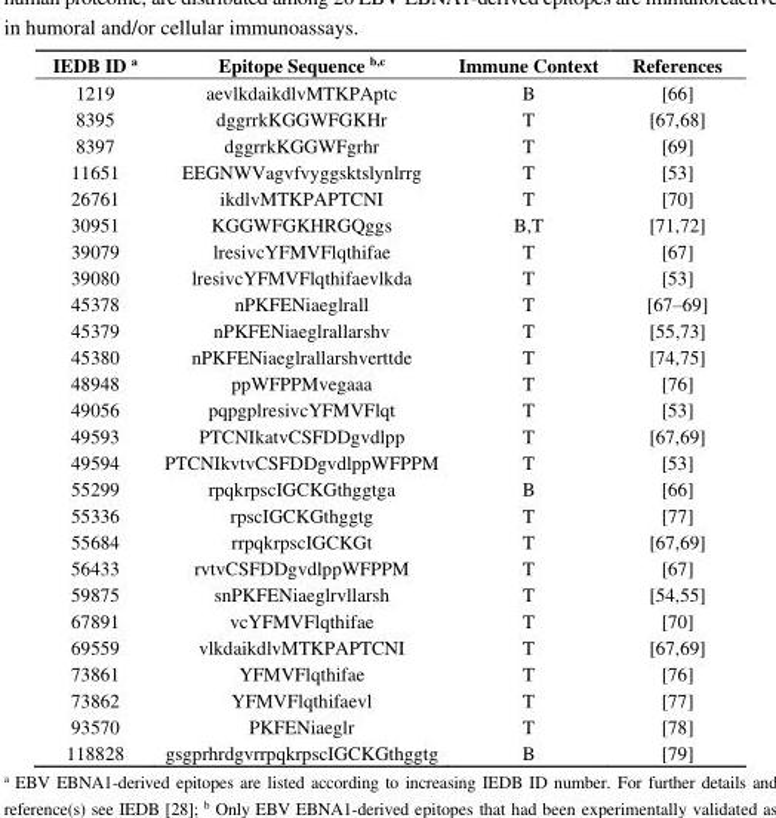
<table><thead><tr><td>IEDB ID <sup>a</sup></td><td>Epitope Sequence <sup>b,c</sup></td><td>Immune Context</td><td>References</td></tr></thead><tbody><tr><td>1219</td><td>aevlkdaikdlvMTKPAptc</td><td>B</td><td>[66]</td></tr><tr><td>8395</td><td>dggrrkKGGWFGKHr</td><td>T</td><td>[67,68]</td></tr><tr><td>8397</td><td>dggrrkKGGWFgrhr</td><td>T</td><td>[69]</td></tr><tr><td>11651</td><td>EEGNWVagvfvyggsktslynlrrg</td><td>T</td><td>[53]</td></tr><tr><td>26761</td><td>ikdlvMTKPAPTCNI</td><td>T</td><td>[70]</td></tr><tr><td>30951</td><td>KGGWFGKHRGQggs</td><td>B,T</td><td>[71,72]</td></tr><tr><td>39079</td><td>lresivcYFMVFlqthifae</td><td>T</td><td>[67]</td></tr><tr><td>39080</td><td>lresivcYFMVFlqthifaevlkda</td><td>T</td><td>[53]</td></tr><tr><td>45378</td><td>nPKFENiaeglrall</td><td>T</td><td>[67–69]</td></tr><tr><td>45379</td><td>nPKFENiaeglrallarshv</td><td>T</td><td>[55,73]</td></tr><tr><td>45380</td><td>nPKFENiaeglrallarshverttde</td><td>T</td><td>[74,75]</td></tr><tr><td>48948</td><td>ppWFPPMvegaaa</td><td>T</td><td>[76]</td></tr><tr><td>49056</td><td>pqpgplresivcYFMVFlqt</td><td>T</td><td>[53]</td></tr><tr><td>49593</td><td>PTCNIkatvCSFDDgvdlpp</td><td>T</td><td>[67,69]</td></tr><tr><td>49594</td><td>PTCNIkvtvCSFDDgvdlppWFPPM</td><td>T</td><td>[53]</td></tr><tr><td>55299</td><td>rpqkrpscIGCKGthggtga</td><td>B</td><td>[66]</td></tr><tr><td>55336</td><td>rpscIGCKGthggtg</td><td>T</td><td>[77]</td></tr><tr><td>55684</td><td>rrpqkrpscIGCKGt</td><td>T</td><td>[67,69]</td></tr><tr><td>56433</td><td>rvtvCSFDDgvdlppWFPPM</td><td>T</td><td>[67]</td></tr><tr><td>59875</td><td>snPKFENiaeglrvllarsh</td><td>T</td><td>[54,55]</td></tr><tr><td>67891</td><td>vcYFMVFlqthifae</td><td>T</td><td>[70]</td></tr><tr><td>69559</td><td>vlkdaikdlvMTKPAPTCNI</td><td>T</td><td>[67,69]</td></tr><tr><td>73861</td><td>YFMVFlqthifae</td><td>T</td><td>[76]</td></tr><tr><td>73862</td><td>YFMVFlqthifaevl</td><td>T</td><td>[77]</td></tr><tr><td>93570</td><td>PKFENiaeglr</td><td>T</td><td>[78]</td></tr><tr><td>118828</td><td>gsgprhrdgvrrpqkrpscIGCKGthggtg</td><td>B</td><td>[79]</td></tr></tbody></table>